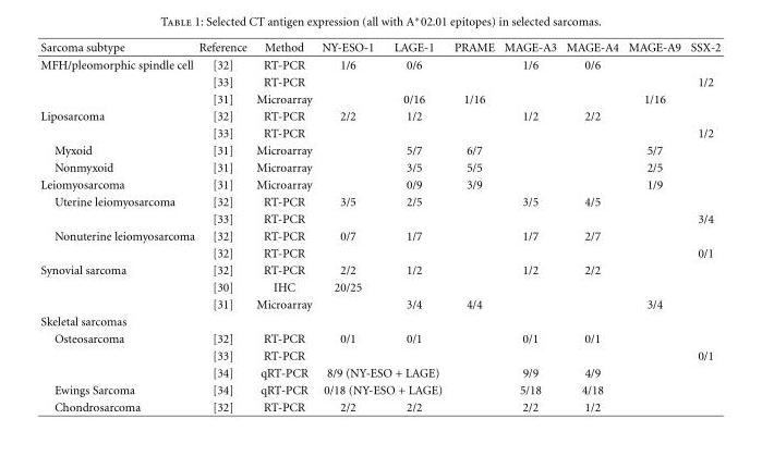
<table><thead><tr><td>Sarcoma subtype</td><td>Reference</td><td>Method</td><td>NY-ESO-1</td><td>LAGE-1</td><td>PRAME</td><td>MAGE-A3</td><td>MAGE-A4</td><td>MAGE-A9</td><td>SSX-2</td></tr></thead><tbody><tr><td rowspan="3">MFH/pleomorphic spindle cell</td><td>[32]</td><td>RT-PCR</td><td>1/6</td><td>0/6</td><td></td><td>1/6</td><td>0/6</td><td></td><td></td></tr><tr><td>[33]</td><td>RT-PCR</td><td></td><td></td><td></td><td></td><td></td><td></td><td>1/2</td></tr><tr><td>[31]</td><td>Microarray</td><td></td><td>0/16</td><td>1/16</td><td></td><td></td><td>1/16</td><td></td></tr><tr><td rowspan="2">Liposarcoma</td><td>[32]</td><td>RT-PCR</td><td>2/2</td><td>1/2</td><td></td><td>1/2</td><td>2/2</td><td></td><td></td></tr><tr><td>[33]</td><td>RT-PCR</td><td></td><td></td><td></td><td></td><td></td><td></td><td>1/2</td></tr><tr><td>Myxoid</td><td>[31]</td><td>Microarray</td><td></td><td>5/7</td><td>6/7</td><td></td><td></td><td>5/7</td><td></td></tr><tr><td>Nonmyxoid</td><td>[31]</td><td>Microarray</td><td></td><td>3/5</td><td>5/5</td><td></td><td></td><td>2/5</td><td></td></tr><tr><td>Leiomyosarcoma</td><td>[31]</td><td>Microarray</td><td></td><td>0/9</td><td>3/9</td><td></td><td></td><td>1/9</td><td></td></tr><tr><td rowspan="2">Uterine leiomyosarcoma</td><td>[32]</td><td>RT-PCR</td><td>3/5</td><td>2/5</td><td></td><td>3/5</td><td>4/5</td><td></td><td></td></tr><tr><td>[33]</td><td>RT-PCR</td><td></td><td></td><td></td><td></td><td></td><td></td><td>3/4</td></tr><tr><td rowspan="2">Nonuterine leiomyosarcoma</td><td>[32]</td><td>RT-PCR</td><td>0/7</td><td>1/7</td><td></td><td>1/7</td><td>2/7</td><td></td><td></td></tr><tr><td>[32]</td><td>RT-PCR</td><td></td><td></td><td></td><td></td><td></td><td></td><td>0/1</td></tr><tr><td rowspan="3">Synovial sarcoma</td><td>[32]</td><td>RT-PCR</td><td>2/2</td><td>1/2</td><td></td><td>1/2</td><td>2/2</td><td></td><td></td></tr><tr><td>[30]</td><td>IHC</td><td>20/25</td><td></td><td></td><td></td><td></td><td></td><td></td></tr><tr><td>[31]</td><td>Microarray</td><td></td><td>3/4</td><td>4/4</td><td></td><td></td><td>3/4</td><td></td></tr><tr><td colspan="10">Skeletal sarcomas</td></tr><tr><td rowspan="3">Osteosarcoma</td><td>[32]</td><td>RT-PCR</td><td>0/1</td><td>0/1</td><td></td><td>0/1</td><td>0/1</td><td></td><td></td></tr><tr><td>[33]</td><td>RT-PCR</td><td></td><td></td><td></td><td></td><td></td><td></td><td>0/1</td></tr><tr><td>[34]</td><td>qRT-PCR</td><td colspan="2">8/9 (NY-ESO + LAGE)</td><td></td><td>9/9</td><td>4/9</td><td></td><td></td></tr><tr><td>Ewings Sarcoma</td><td>[34]</td><td>qRT-PCR</td><td colspan="2">0/18 (NY-ESO + LAGE)</td><td></td><td>5/18</td><td>4/18</td><td></td><td></td></tr><tr><td>Chondrosarcoma</td><td>[32]</td><td>RT-PCR</td><td>2/2</td><td>2/2</td><td></td><td>2/2</td><td>1/2</td><td></td><td></td></tr></tbody></table>